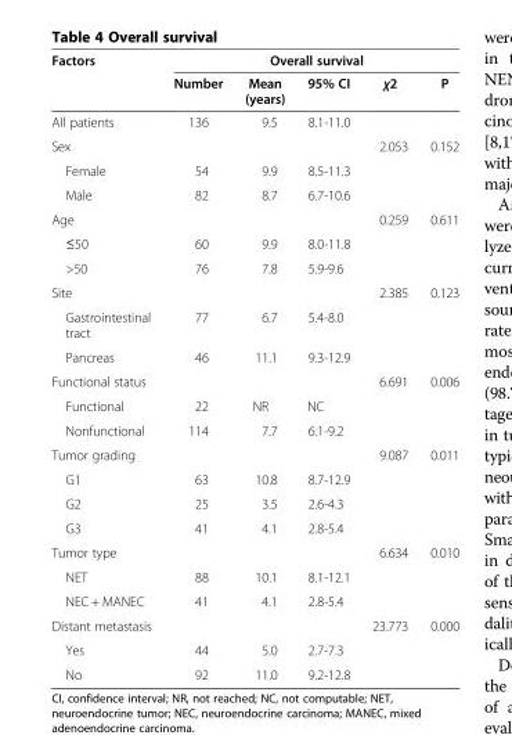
<table><thead><tr><td rowspan="2">Factors</td><td colspan="5">Overall survival</td></tr><tr><td>Number</td><td>Mean (years)</td><td>95% CI</td><td>χ2</td><td>P</td></tr></thead><tbody><tr><td>All patients</td><td>136</td><td>9.5</td><td>8.1-11.0</td><td></td><td></td></tr><tr><td>Sex</td><td></td><td></td><td></td><td>2.053</td><td>0.152</td></tr><tr><td>Female</td><td>54</td><td>9.9</td><td>8.5-11.3</td><td></td><td></td></tr><tr><td>Male</td><td>82</td><td>8.7</td><td>6.7-10.6</td><td></td><td></td></tr><tr><td>Age</td><td></td><td></td><td></td><td>0.259</td><td>0.611</td></tr><tr><td>≤50</td><td>60</td><td>9.9</td><td>8.0-11.8</td><td></td><td></td></tr><tr><td>&gt;50</td><td>76</td><td>7.8</td><td>5.9-9.6</td><td></td><td></td></tr><tr><td>Site</td><td></td><td></td><td></td><td>2.385</td><td>0.123</td></tr><tr><td>Gastrointestinal tract</td><td>77</td><td>6.7</td><td>5.4-8.0</td><td></td><td></td></tr><tr><td>Pancreas</td><td>46</td><td>11.1</td><td>9.3-12.9</td><td></td><td></td></tr><tr><td>Functional status</td><td></td><td></td><td></td><td>6.691</td><td>0.006</td></tr><tr><td>Functional</td><td>22</td><td>NR</td><td>NC</td><td></td><td></td></tr><tr><td>Nonfunctional</td><td>114</td><td>7.7</td><td>6.1-9.2</td><td></td><td></td></tr><tr><td>Tumor grading</td><td></td><td></td><td></td><td>9.087</td><td>0.011</td></tr><tr><td>G1</td><td>63</td><td>10.8</td><td>8.7-12.9</td><td></td><td></td></tr><tr><td>G2</td><td>25</td><td>3.5</td><td>2.6-4.3</td><td></td><td></td></tr><tr><td>G3</td><td>41</td><td>4.1</td><td>2.8-5.4</td><td></td><td></td></tr><tr><td>Tumor type</td><td></td><td></td><td></td><td>6.634</td><td>0.010</td></tr><tr><td>NET</td><td>88</td><td>10.1</td><td>8.1-12.1</td><td></td><td></td></tr><tr><td>NEC + MANEC</td><td>41</td><td>4.1</td><td>2.8-5.4</td><td></td><td></td></tr><tr><td>Distant metastasis</td><td></td><td></td><td></td><td>23.773</td><td>0.000</td></tr><tr><td>Yes</td><td>44</td><td>5.0</td><td>2.7-7.3</td><td></td><td></td></tr><tr><td>No</td><td>92</td><td>11.0</td><td>9.2-12.8</td><td></td><td></td></tr></tbody></table>